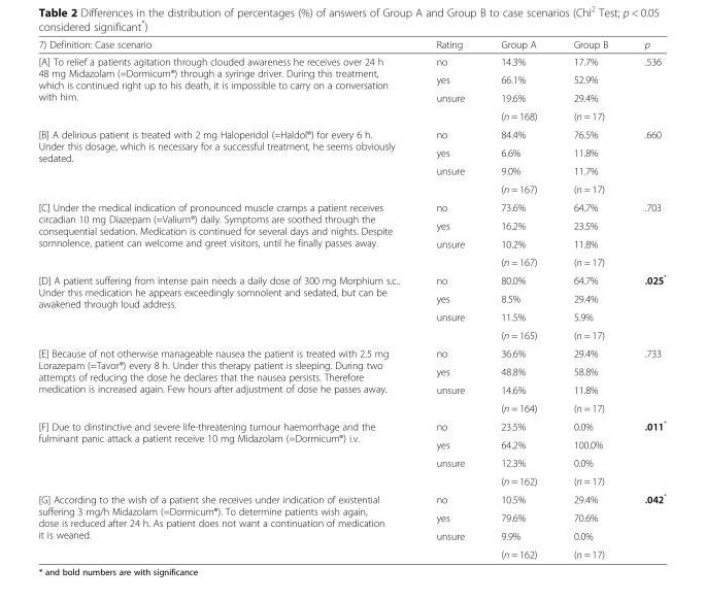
<table><thead><tr><td>7) Definition: Case scenario</td><td>Rating</td><td>Group A</td><td>Group B</td><td>p</td></tr></thead><tbody><tr><td rowspan="4">[A] To relief a patients agitation through clouded awareness he receives over 24 h 48 mg Midazolam (=Dormicum®) through a syringe driver. During this treatment, which is continued right up to his death, it is impossible to carry on a conversation with him.</td><td>no</td><td>14.3%</td><td>17.7%</td><td rowspan="4">.536</td></tr><tr><td>yes</td><td>66.1%</td><td>52.9%</td></tr><tr><td rowspan="2">unsure</td><td>19.6%</td><td>29.4%</td></tr><tr><td>(n = 168)</td><td>(n = 17)</td></tr><tr><td rowspan="4">[B] A delirious patient is treated with 2 mg Haloperidol (=Haldol®) for every 6 h. Under this dosage, which is necessary for a successful treatment, he seems obviously sedated.</td><td>no</td><td>84.4%</td><td>76.5%</td><td rowspan="4">.660</td></tr><tr><td>yes</td><td>6.6%</td><td>11.8%</td></tr><tr><td rowspan="2">unsure</td><td>9.0%</td><td>11.7%</td></tr><tr><td>(n = 167)</td><td>(n = 17)</td></tr><tr><td rowspan="4">[C] Under the medical indication of pronounced muscle cramps a patient receives circadian 10 mg Diazepam (=Valium®) daily. Symptoms are soothed through the consequential sedation. Medication is continued for several days and nights. Despite somnolence, patient can welcome and greet visitors, until he finally passes away.</td><td>no</td><td>73.6%</td><td>64.7%</td><td rowspan="4">.703</td></tr><tr><td>yes</td><td>16.2%</td><td>23.5%</td></tr><tr><td rowspan="2">unsure</td><td>10.2%</td><td>11.8%</td></tr><tr><td>(n = 167)</td><td>(n = 17)</td></tr><tr><td rowspan="4">[D] A patient suffering from intense pain needs a daily dose of 300 mg Morphium s.c.. Under this medication he appears exceedingly somnolent and sedated, but can be awakened through loud address.</td><td>no</td><td>80.0%</td><td>64.7%</td><td rowspan="4">.025*</td></tr><tr><td>yes</td><td>8.5%</td><td>29.4%</td></tr><tr><td rowspan="2">unsure</td><td>11.5%</td><td>5.9%</td></tr><tr><td>(n = 165)</td><td>(n = 17)</td></tr><tr><td rowspan="4">[E] Because of not otherwise manageable nausea the patient is treated with 2.5 mg Lorazepam (=Tavor®) every 8 h. Under this therapy patient is sleeping. During two attempts of reducing the dose he declares that the nausea persists. Therefore medication is increased again. Few hours after adjustment of dose he passes away.</td><td>no</td><td>36.6%</td><td>29.4%</td><td rowspan="4">.733</td></tr><tr><td>yes</td><td>48.8%</td><td>58.8%</td></tr><tr><td rowspan="2">unsure</td><td>14.6%</td><td>11.8%</td></tr><tr><td>(n = 164)</td><td>(n = 17)</td></tr><tr><td rowspan="4">[F] Due to dinstinctive and severe life-threatening tumour haemorrhage and the fulminant panic attack a patient receive 10 mg Midazolam (=Dormicum®) i.v.</td><td>no</td><td>23.5%</td><td>0.0%</td><td rowspan="4">.011*</td></tr><tr><td>yes</td><td>64.2%</td><td>100.0%</td></tr><tr><td rowspan="2">unsure</td><td>12.3%</td><td>0.0%</td></tr><tr><td>(n = 162)</td><td>(n = 17)</td></tr><tr><td rowspan="4">[G] According to the wish of a patient she receives under indication of existential suffering 3 mg/h Midazolam (=Dormicum®). To determine patients wish again, dose is reduced after 24 h. As patient does not want a continuation of medication it is weaned.</td><td>no</td><td>10.5%</td><td>29.4%</td><td rowspan="4">.042*</td></tr><tr><td>yes</td><td>79.6%</td><td>70.6%</td></tr><tr><td rowspan="2">unsure</td><td>9.9%</td><td>0.0%</td></tr><tr><td>(n = 162)</td><td>(n = 17)</td></tr></tbody></table>